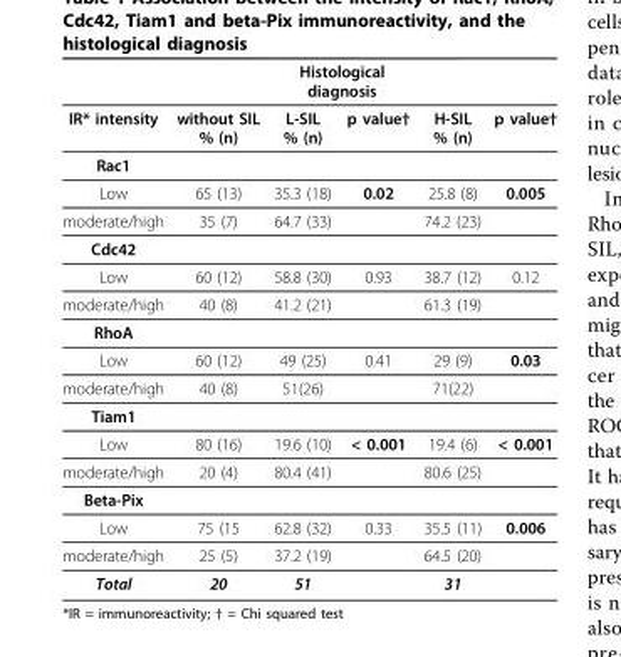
<table><thead><tr><td rowspan="2">IR* intensity</td><td rowspan="2">without SIL % (n)</td><td colspan="2">Histological diagnosis</td><td rowspan="2">H-SIL % (n)</td><td rowspan="2">p value†</td></tr><tr><td>L-SIL % (n)</td><td>p value†</td></tr></thead><tbody><tr><td colspan="6">Rac1</td></tr><tr><td>Low</td><td>65 (13)</td><td>35.3 (18)</td><td>0.02</td><td>25.8 (8)</td><td>0.005</td></tr><tr><td>moderate/high</td><td>35 (7)</td><td>64.7 (33)</td><td></td><td>74.2 (23)</td><td></td></tr><tr><td colspan="6">Cdc42</td></tr><tr><td>Low</td><td>60 (12)</td><td>58.8 (30)</td><td>0.93</td><td>38.7 (12)</td><td>0.12</td></tr><tr><td>moderate/high</td><td>40 (8)</td><td>41.2 (21)</td><td></td><td>61.3 (19)</td><td></td></tr><tr><td colspan="6">RhoA</td></tr><tr><td>Low</td><td>60 (12)</td><td>49 (25)</td><td>0.41</td><td>29 (9)</td><td>0.03</td></tr><tr><td>moderate/high</td><td>40 (8)</td><td>51(26)</td><td></td><td>71(22)</td><td></td></tr><tr><td colspan="6">Tiam1</td></tr><tr><td>Low</td><td>80 (16)</td><td>19.6 (10)</td><td>&lt; 0.001</td><td>19.4 (6)</td><td>&lt; 0.001</td></tr><tr><td>moderate/high</td><td>20 (4)</td><td>80.4 (41)</td><td></td><td>80.6 (25)</td><td></td></tr><tr><td colspan="6">Beta-Pix</td></tr><tr><td>Low</td><td>75 (15</td><td>62.8 (32)</td><td>0.33</td><td>35.5 (11)</td><td>0.006</td></tr><tr><td>moderate/high</td><td>25 (5)</td><td>37.2 (19)</td><td></td><td>64.5 (20)</td><td></td></tr><tr><td>Total</td><td>20</td><td>51</td><td></td><td>31</td><td></td></tr></tbody></table>